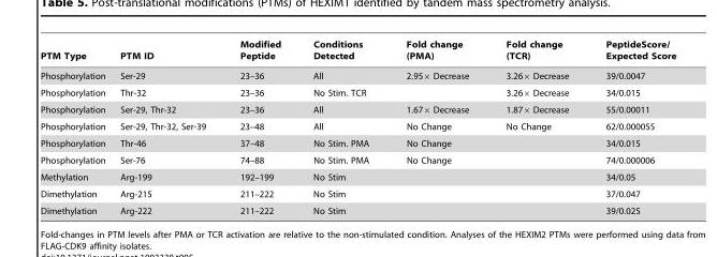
<table><thead><tr><td>PTM Type</td><td>PTM ID</td><td>Modified Peptide</td><td>Conditions Detected</td><td>Fold change (PMA)</td><td>Fold change (TCR)</td><td>PeptideScore/ Expected Score</td></tr></thead><tbody><tr><td>Phosphorylation</td><td>Ser-29</td><td>23–36</td><td>All</td><td>2.95× Decrease</td><td>3.26× Decrease</td><td>39/0.0047</td></tr><tr><td>Phosphorylation</td><td>Thr-32</td><td>23–36</td><td>No Stim. TCR</td><td></td><td>3.26× Decrease</td><td>34/0.015</td></tr><tr><td>Phosphorylation</td><td>Ser-29, Thr-32</td><td>23–36</td><td>All</td><td>1.67× Decrease</td><td>1.87× Decrease</td><td>55/0.00011</td></tr><tr><td>Phosphorylation</td><td>Ser-29, Thr-32, Ser-39</td><td>23–48</td><td>All</td><td>No Change</td><td>No Change</td><td>62/0.000055</td></tr><tr><td>Phosphorylation</td><td>Thr-46</td><td>37–48</td><td>No Stim. PMA</td><td>No Change</td><td></td><td>34/0.015</td></tr><tr><td>Phosphorylation</td><td>Ser-76</td><td>74–88</td><td>No Stim. PMA</td><td>No Change</td><td></td><td>74/0.000006</td></tr><tr><td>Methylation</td><td>Arg-199</td><td>192–199</td><td>No Stim</td><td></td><td></td><td>34/0.05</td></tr><tr><td>Dimethylation</td><td>Arg-215</td><td>211–222</td><td>No Stim</td><td></td><td></td><td>37/0.047</td></tr><tr><td>Dimethylation</td><td>Arg-222</td><td>211–222</td><td>No Stim</td><td></td><td></td><td>39/0.025</td></tr></tbody></table>